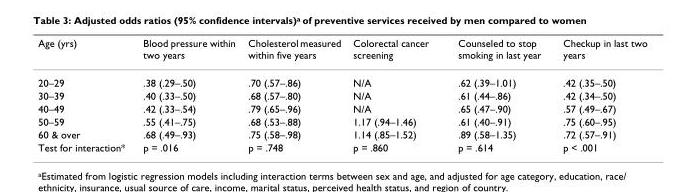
<table><thead><tr><td>Age (yrs)</td><td>Blood pressure within two years</td><td>Cholesterol measured within five years</td><td>Colorectal cancer screening</td><td>Counseled to stop smoking in last year</td><td>Checkup in last two years</td></tr></thead><tbody><tr><td>20–29</td><td>.38 (.29–.50)</td><td>.70 (.57–.86)</td><td>N/A</td><td>.62 (.39–1.01)</td><td>.42 (.35–.50)</td></tr><tr><td>30–39</td><td>.40 (.33–.50)</td><td>.68 (.57–.80)</td><td>N/A</td><td>.61 (.44–.86)</td><td>.42 (.34–.50)</td></tr><tr><td>40–49</td><td>.42 (.33–.54)</td><td>.79 (.65–.96)</td><td>N/A</td><td>.65 (.47–.90)</td><td>.57 (.49–.67)</td></tr><tr><td>50–59</td><td>.55 (.41–.75)</td><td>.68 (.53–.88)</td><td>1.17 (.94–1.46)</td><td>.61 (.40–.91)</td><td>.75 (.60–.95)</td></tr><tr><td>60 &amp; over</td><td>.68 (.49–.93)</td><td>.75 (.58–.98)</td><td>1.14 (.85–1.52)</td><td>.89 (.58–1.35)</td><td>.72 (.57–.91)</td></tr><tr><td>Test for interaction*</td><td>p = .016</td><td>p = .748</td><td>p = .860</td><td>p = .614</td><td>p &lt; .001</td></tr></tbody></table>